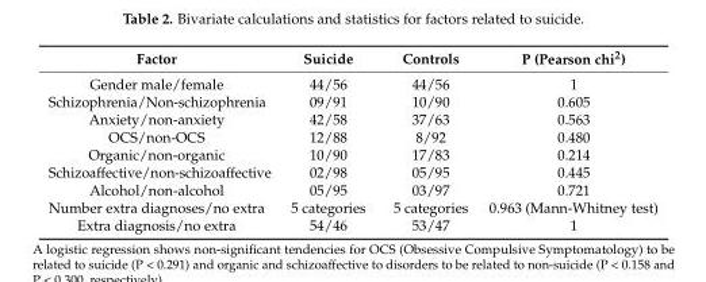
<table><thead><tr><td>Factor</td><td>Suicide</td><td>Controls</td><td>P (Pearson chi<sup>2</sup>)</td></tr></thead><tbody><tr><td>Gender male/female</td><td>44/56</td><td>44/56</td><td>1</td></tr><tr><td>Schizophrenia/Non-schizophrenia</td><td>09/91</td><td>10/90</td><td>0.605</td></tr><tr><td>Anxiety/non-anxiety</td><td>42/58</td><td>37/63</td><td>0.563</td></tr><tr><td>OCS/non-OCS</td><td>12/88</td><td>8/92</td><td>0.480</td></tr><tr><td>Organic/non-organic</td><td>10/90</td><td>17/83</td><td>0.214</td></tr><tr><td>Schizoaffective/non-schizoaffective</td><td>02/98</td><td>05/95</td><td>0.445</td></tr><tr><td>Alcohol/non-alcohol</td><td>05/95</td><td>03/97</td><td>0.721</td></tr><tr><td>Number extra diagnoses/no extra</td><td>5 categories</td><td>5 categories</td><td>0.963 (Mann-Whitney test)</td></tr><tr><td>Extra diagnosis/no extra</td><td>54/46</td><td>53/47</td><td>1</td></tr></tbody></table>